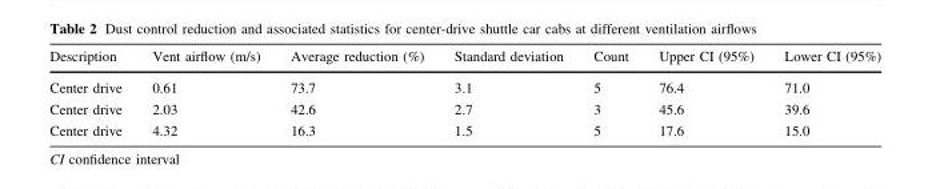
<table><thead><tr><td>Description</td><td>Vent airflow (m/s)</td><td>Average reduction (%)</td><td>Standard deviation</td><td>Count</td><td>Upper CI (95%)</td><td>Lower CI (95%)</td></tr></thead><tbody><tr><td>Center drive</td><td>0.61</td><td>73.7</td><td>3.1</td><td>5</td><td>76.4</td><td>71.0</td></tr><tr><td>Center drive</td><td>2.03</td><td>42.6</td><td>2.7</td><td>3</td><td>45.6</td><td>39.6</td></tr><tr><td>Center drive</td><td>4.32</td><td>16.3</td><td>1.5</td><td>5</td><td>17.6</td><td>15.0</td></tr></tbody></table>